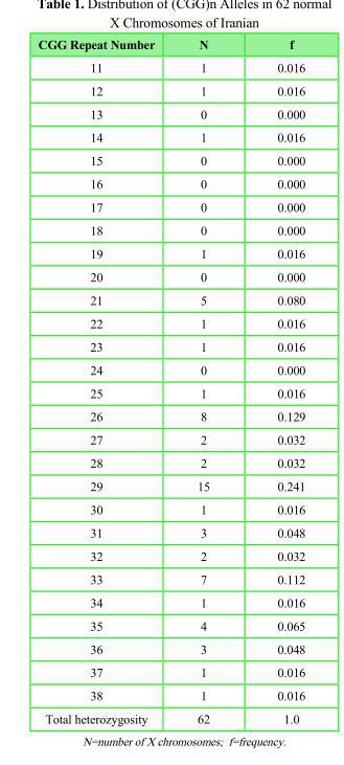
<table><thead><tr><td>CGG Repeat Number</td><td>N</td><td>f</td></tr></thead><tbody><tr><td>11</td><td>1</td><td>0.016</td></tr><tr><td>12</td><td>1</td><td>0.016</td></tr><tr><td>13</td><td>0</td><td>0.000</td></tr><tr><td>14</td><td>1</td><td>0.016</td></tr><tr><td>15</td><td>0</td><td>0.000</td></tr><tr><td>16</td><td>0</td><td>0.000</td></tr><tr><td>17</td><td>0</td><td>0.000</td></tr><tr><td>18</td><td>0</td><td>0.000</td></tr><tr><td>19</td><td>1</td><td>0.016</td></tr><tr><td>20</td><td>0</td><td>0.000</td></tr><tr><td>21</td><td>5</td><td>0.080</td></tr><tr><td>22</td><td>1</td><td>0.016</td></tr><tr><td>23</td><td>1</td><td>0.016</td></tr><tr><td>24</td><td>0</td><td>0.000</td></tr><tr><td>25</td><td>1</td><td>0.016</td></tr><tr><td>26</td><td>8</td><td>0.129</td></tr><tr><td>27</td><td>2</td><td>0.032</td></tr><tr><td>28</td><td>2</td><td>0.032</td></tr><tr><td>29</td><td>15</td><td>0.241</td></tr><tr><td>30</td><td>1</td><td>0.016</td></tr><tr><td>31</td><td>3</td><td>0.048</td></tr><tr><td>32</td><td>2</td><td>0.032</td></tr><tr><td>33</td><td>7</td><td>0.112</td></tr><tr><td>34</td><td>1</td><td>0.016</td></tr><tr><td>35</td><td>4</td><td>0.065</td></tr><tr><td>36</td><td>3</td><td>0.048</td></tr><tr><td>37</td><td>1</td><td>0.016</td></tr><tr><td>38</td><td>1</td><td>0.016</td></tr><tr><td>Total heterozygosity</td><td>62</td><td>1.0</td></tr></tbody></table>